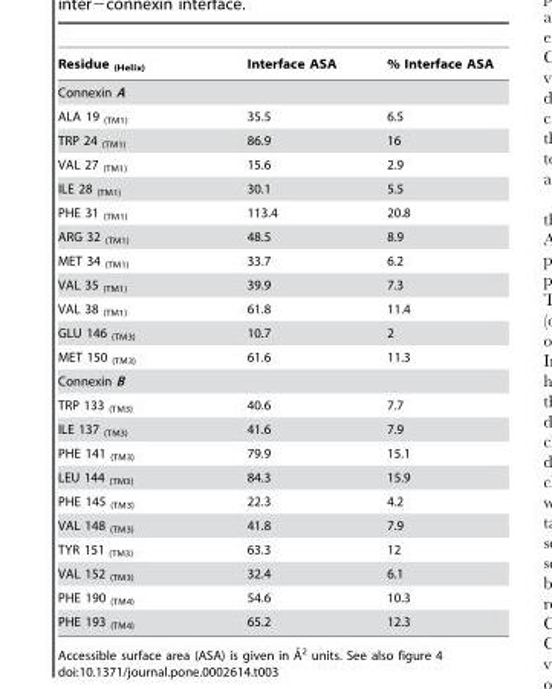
<table><thead><tr><td>Residue <sub>(Helix)</sub></td><td>Interface ASA</td><td>% Interface ASA</td></tr></thead><tbody><tr><td colspan="3">Connexin A</td></tr><tr><td>ALA 19 <sub>(TM1)</sub></td><td>35.5</td><td>6.5</td></tr><tr><td>TRP 24 <sub>(TM1)</sub></td><td>86.9</td><td>16</td></tr><tr><td>VAL 27 <sub>(TM1)</sub></td><td>15.6</td><td>2.9</td></tr><tr><td>ILE 28 <sub>(TM1)</sub></td><td>30.1</td><td>5.5</td></tr><tr><td>PHE 31 <sub>(TM1)</sub></td><td>113.4</td><td>20.8</td></tr><tr><td>ARG 32 <sub>(TM1)</sub></td><td>48.5</td><td>8.9</td></tr><tr><td>MET 34 <sub>(TM1)</sub></td><td>33.7</td><td>6.2</td></tr><tr><td>VAL 35 <sub>(TM1)</sub></td><td>39.9</td><td>7.3</td></tr><tr><td>VAL 38 <sub>(TM1)</sub></td><td>61.8</td><td>11.4</td></tr><tr><td>GLU 146 <sub>(TM3)</sub></td><td>10.7</td><td>2</td></tr><tr><td>MET 150 <sub>(TM3)</sub></td><td>61.6</td><td>11.3</td></tr><tr><td colspan="3">Connexin B</td></tr><tr><td>TRP 133 <sub>(TM3)</sub></td><td>40.6</td><td>7.7</td></tr><tr><td>ILE 137 <sub>(TM3)</sub></td><td>41.6</td><td>7.9</td></tr><tr><td>PHE 141 <sub>(TM3)</sub></td><td>79.9</td><td>15.1</td></tr><tr><td>LEU 144 <sub>(TM3)</sub></td><td>84.3</td><td>15.9</td></tr><tr><td>PHE 145 <sub>(TM3)</sub></td><td>22.3</td><td>4.2</td></tr><tr><td>VAL 148 <sub>(TM3)</sub></td><td>41.8</td><td>7.9</td></tr><tr><td>TYR 151 <sub>(TM3)</sub></td><td>63.3</td><td>12</td></tr><tr><td>VAL 152 <sub>(TM3)</sub></td><td>32.4</td><td>6.1</td></tr><tr><td>PHE 190 <sub>(TM4)</sub></td><td>54.6</td><td>10.3</td></tr><tr><td>PHE 193 <sub>(TM4)</sub></td><td>65.2</td><td>12.3</td></tr></tbody></table>